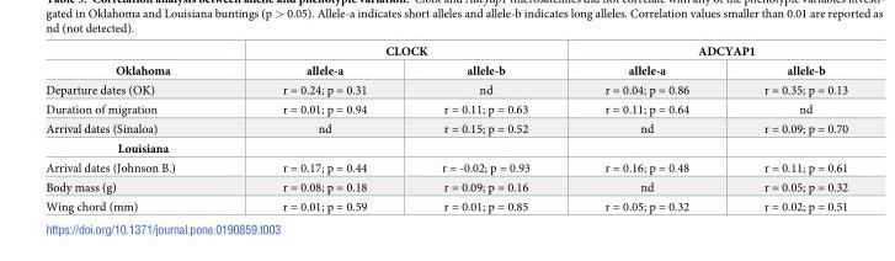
<table><thead><tr><td rowspan="2">Oklahoma</td><td colspan="2">CLOCK</td><td colspan="2">ADCYAP1</td></tr><tr><td>allele-a</td><td>allele-b</td><td>allele-a</td><td>allele-b</td></tr></thead><tbody><tr><td>Departure dates (OK)</td><td>r = 0.24; p = 0.31</td><td>nd</td><td>r = 0.04; p = 0.86</td><td>r = 0.35; p = 0.13</td></tr><tr><td>Duration of migration</td><td>r = 0.01; p = 0.94</td><td>r = 0.11; p = 0.63</td><td>r = 0.11; p = 0.64</td><td>nd</td></tr><tr><td>Arrival dates (Sinaloa)</td><td>nd</td><td>r = 0.15; p = 0.52</td><td>nd</td><td>r = 0.09; p = 0.70</td></tr><tr><td colspan="5">Louisiana</td></tr><tr><td>Arrival dates (Johnson B.)</td><td>r = 0.17; p = 0.44</td><td>r = -0.02; p = 0.93</td><td>r = 0.16; p = 0.48</td><td>r = 0.11; p = 0.61</td></tr><tr><td>Body mass (g)</td><td>r = 0.08; p = 0.18</td><td>r = 0.09; p = 0.16</td><td>nd</td><td>r = 0.05; p = 0.32</td></tr><tr><td>Wing chord (mm)</td><td>r = 0.01; p = 0.59</td><td>r = 0.01; p = 0.85</td><td>r = 0.05; p = 0.32</td><td>r = 0.02; p = 0.51</td></tr></tbody></table>